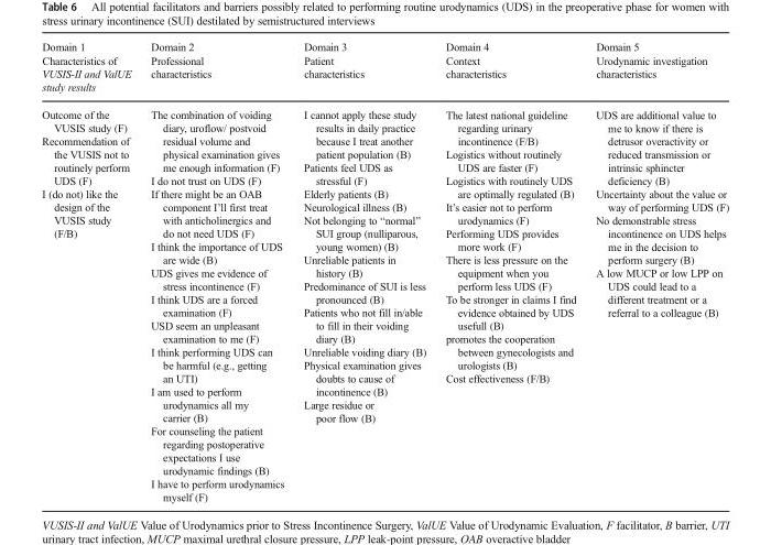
<table><thead><tr><td>Domain 1 Characteristics of VUSIS-II and ValUE study results</td><td>Domain 2 Professional characteristics</td><td>Domain 3 Patient characteristics</td><td>Domain 4 Context characteristics</td><td>Domain 5 Urodynamic investigation characteristics</td></tr></thead><tbody><tr><td>Outcome of the VUSIS study (F) Recommendation of the VUSIS not to routinely perform UDS (F) I (do not) like the design of the VUSIS study (F/B)</td><td>The combination of voiding diary, uroflow/ postvoid residual volume and physical examination gives me enough information (F) I do not trust on UDS (F) If there might be an OAB component I’ll first treat with anticholinergics and do not need UDS (F) I think the importance of UDS are wide (B) UDS gives me evidence of stress incontinence (F) I think UDS are a forced examination (F) USD seem an unpleasant examination to me (F) I think performing UDS can be harmful (e.g., getting an UTI) I am used to perform urodynamics all my carrier (B) For counseling the patient regarding postoperative expectations I use urodynamic findings (B) I have to perform urodynamics myself (F)</td><td>I cannot apply these study results in daily practice because I treat another patient population (B) Patients feel UDS as stressful (F) Elderly patients (B) Neurological illness (B) Not belonging to “normal” SUI group (nulliparous, young women) (B) Unreliable patients in history (B) Predominance of SUI is less pronounced (B) Patients who not fill in/able to fill in their voiding diary (B) Unreliable voiding diary (B) Physical examination gives doubts to cause of incontinence (B) Large residue or poor flow (B)</td><td>The latest national guideline regarding urinary incontinence (F/B) Logistics without routinely UDS are faster (F) Logistics with routinely UDS are optimally regulated (B) It’s easier not to perform urodynamics (F) Performing UDS provides more work (F) There is less pressure on the equipment when you perform less UDS (F) To be stronger in claims I find evidence obtained by UDS usefull (B) promotes the cooperation between gynecologists and urologists (B) Cost effectiveness (F/B)</td><td>UDS are additional value to me to know if there is detrusor overactivity or reduced transmission or intrinsic sphincter deficiency (B) Uncertainty about the value or way of performing UDS (F) No demonstrable stress incontinence on UDS helps me in the decision to perform surgery (B) A low MUCP or low LPP on UDS could lead to a different treatment or a referral to a colleague (B)</td></tr></tbody></table>